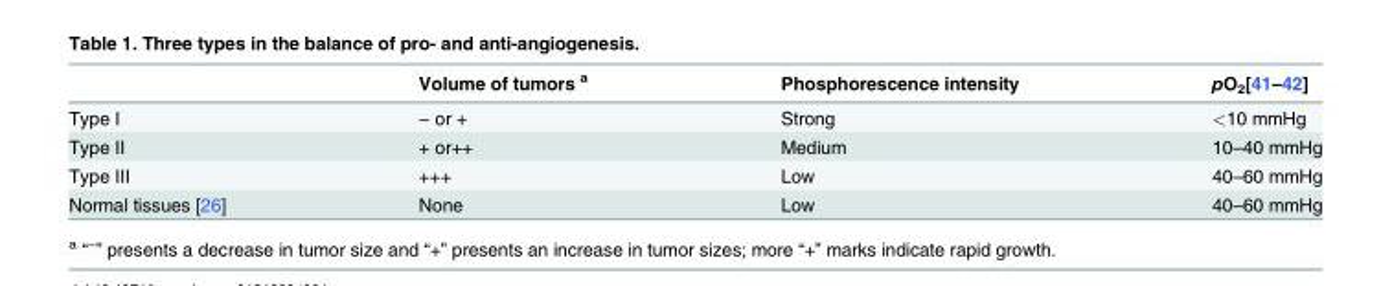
<table><thead><tr><td></td><td>Volume of tumors <sup>a</sup></td><td>Phosphorescence intensity</td><td>pO<sub>2</sub>[41–42]</td></tr></thead><tbody><tr><td>Type I</td><td>− or +</td><td>Strong</td><td>&lt;10 mmHg</td></tr><tr><td>Type II</td><td>+ or++</td><td>Medium</td><td>10–40 mmHg</td></tr><tr><td>Type III</td><td>+++</td><td>Low</td><td>40–60 mmHg</td></tr><tr><td>Normal tissues [26]</td><td>None</td><td>Low</td><td>40–60 mmHg</td></tr></tbody></table>